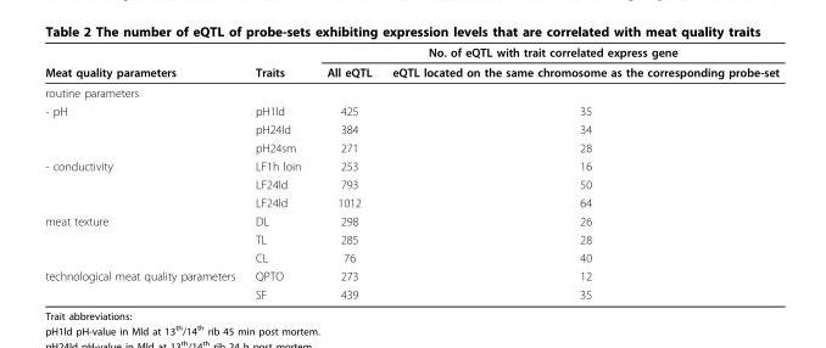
<table><thead><tr><td rowspan="2">Meat quality parameters</td><td rowspan="2">Traits</td><td colspan="2">No. of eQTL with trait correlated express gene</td></tr><tr><td>All eQTL</td><td>eQTL located on the same chromosome as the corresponding probe-set</td></tr></thead><tbody><tr><td colspan="4">routine parameters</td></tr><tr><td rowspan="3">- pH</td><td>pH1ld</td><td>425</td><td>35</td></tr><tr><td>pH24ld</td><td>384</td><td>34</td></tr><tr><td>pH24sm</td><td>271</td><td>28</td></tr><tr><td rowspan="3">- conductivity</td><td>LF1h loin</td><td>253</td><td>16</td></tr><tr><td>LF24ld</td><td>793</td><td>50</td></tr><tr><td>LF24ld</td><td>1012</td><td>64</td></tr><tr><td rowspan="3">meat texture</td><td>DL</td><td>298</td><td>26</td></tr><tr><td>TL</td><td>285</td><td>28</td></tr><tr><td>CL</td><td>76</td><td>40</td></tr><tr><td rowspan="2">technological meat quality parameters</td><td>QPTO</td><td>273</td><td>12</td></tr><tr><td>SF</td><td>439</td><td>35</td></tr></tbody></table>